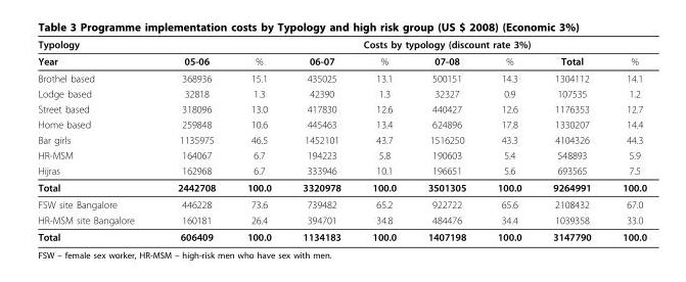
<table><thead><tr><td rowspan="2">Typology Year</td><td rowspan="2">05-06</td><td colspan="7">Costs by typology (discount rate 3%)</td></tr><tr><td>%</td><td>06-07</td><td>%</td><td>07-08</td><td>%</td><td>Total</td><td>%</td></tr></thead><tbody><tr><td>Brothel based</td><td>368936</td><td>15.1</td><td>435025</td><td>13.1</td><td>500151</td><td>14.3</td><td>1304112</td><td>14.1</td></tr><tr><td>Lodge based</td><td>32818</td><td>1.3</td><td>42390</td><td>1.3</td><td>32327</td><td>0.9</td><td>107535</td><td>1.2</td></tr><tr><td>Street based</td><td>318096</td><td>13.0</td><td>417830</td><td>12.6</td><td>440427</td><td>12.6</td><td>1176353</td><td>12.7</td></tr><tr><td>Home based</td><td>259848</td><td>10.6</td><td>445463</td><td>13.4</td><td>624896</td><td>17.8</td><td>1330207</td><td>14.4</td></tr><tr><td>Bar girls</td><td>1135975</td><td>46.5</td><td>1452101</td><td>43.7</td><td>1516250</td><td>43.3</td><td>4104326</td><td>44.3</td></tr><tr><td>HR-MSM</td><td>164067</td><td>6.7</td><td>194223</td><td>5.8</td><td>190603</td><td>5.4</td><td>548893</td><td>5.9</td></tr><tr><td>Hijras</td><td>162968</td><td>6.7</td><td>333946</td><td>10.1</td><td>196651</td><td>5.6</td><td>693565</td><td>7.5</td></tr><tr><td>Total</td><td>2442708</td><td>100.0</td><td>3320978</td><td>100.0</td><td>3501305</td><td>100.0</td><td>9264991</td><td>100.0</td></tr><tr><td>FSW site Bangalore</td><td>446228</td><td>73.6</td><td>739482</td><td>65.2</td><td>922722</td><td>65.6</td><td>2108432</td><td>67.0</td></tr><tr><td>HR-MSM site Bangalore</td><td>160181</td><td>26.4</td><td>394701</td><td>34.8</td><td>484476</td><td>34.4</td><td>1039358</td><td>33.0</td></tr><tr><td>Total</td><td>606409</td><td>100.0</td><td>1134183</td><td>100.0</td><td>1407198</td><td>100.0</td><td>3147790</td><td>100.0</td></tr></tbody></table>